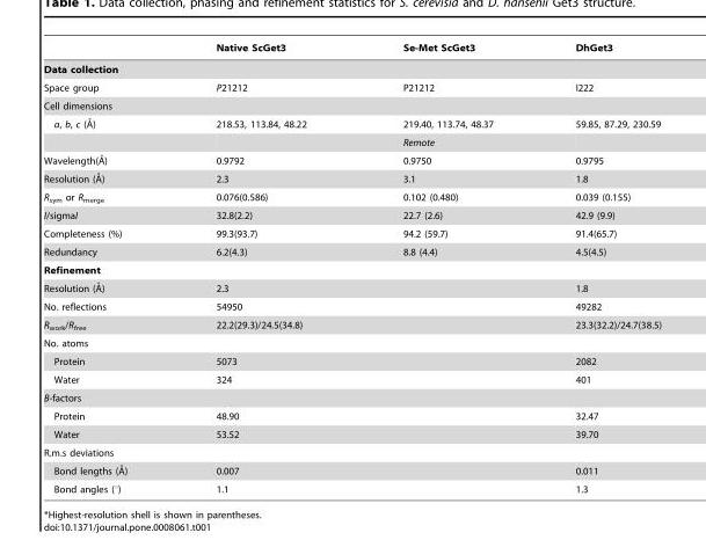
<table><thead><tr><td></td><td>Native ScGet3</td><td>Se-Met ScGet3</td><td>DhGet3</td></tr></thead><tbody><tr><td colspan="4">Data collection</td></tr><tr><td>Space group</td><td>P21212</td><td>P21212</td><td>I222</td></tr><tr><td colspan="4">Cell dimensions</td></tr><tr><td rowspan="2">a, b, c (A˚)</td><td>218.53, 113.84, 48.22</td><td>219.40, 113.74, 48.37</td><td>59.85, 87.29, 230.59</td></tr><tr><td></td><td>Remote</td><td></td></tr><tr><td>Wavelength(A˚)</td><td>0.9792</td><td>0.9750</td><td>0.9795</td></tr><tr><td>Resolution (A˚)</td><td>2.3</td><td>3.1</td><td>1.8</td></tr><tr><td>R<sub>sym</sub> or R<sub>merge</sub></td><td>0.076(0.586)</td><td>0.102 (0.480)</td><td>0.039 (0.155)</td></tr><tr><td>I/sigmaI</td><td>32.8(2.2)</td><td>22.7 (2.6)</td><td>42.9 (9.9)</td></tr><tr><td>Completeness (%)</td><td>99.3(93.7)</td><td>94.2 (59.7)</td><td>91.4(65.7)</td></tr><tr><td>Redundancy</td><td>6.2(4.3)</td><td>8.8 (4.4)</td><td>4.5(4.5)</td></tr><tr><td colspan="4">Refinement</td></tr><tr><td>Resolution (A˚)</td><td>2.3</td><td></td><td>1.8</td></tr><tr><td>No. reflections</td><td>54950</td><td></td><td>49282</td></tr><tr><td>R<sub>work</sub>/R<sub>free</sub></td><td>22.2(29.3)/24.5(34.8)</td><td></td><td>23.3(32.2)/24.7(38.5)</td></tr><tr><td colspan="4">No. atoms</td></tr><tr><td>Protein</td><td>5073</td><td></td><td>2082</td></tr><tr><td>Water</td><td>324</td><td></td><td>401</td></tr><tr><td colspan="4">B-factors</td></tr><tr><td>Protein</td><td>48.90</td><td></td><td>32.47</td></tr><tr><td>Water</td><td>53.52</td><td></td><td>39.70</td></tr><tr><td colspan="4">R.m.s deviations</td></tr><tr><td>Bond lengths (A˚)</td><td>0.007</td><td></td><td>0.011</td></tr><tr><td>Bond angles (°)</td><td>1.1</td><td></td><td>1.3</td></tr></tbody></table>